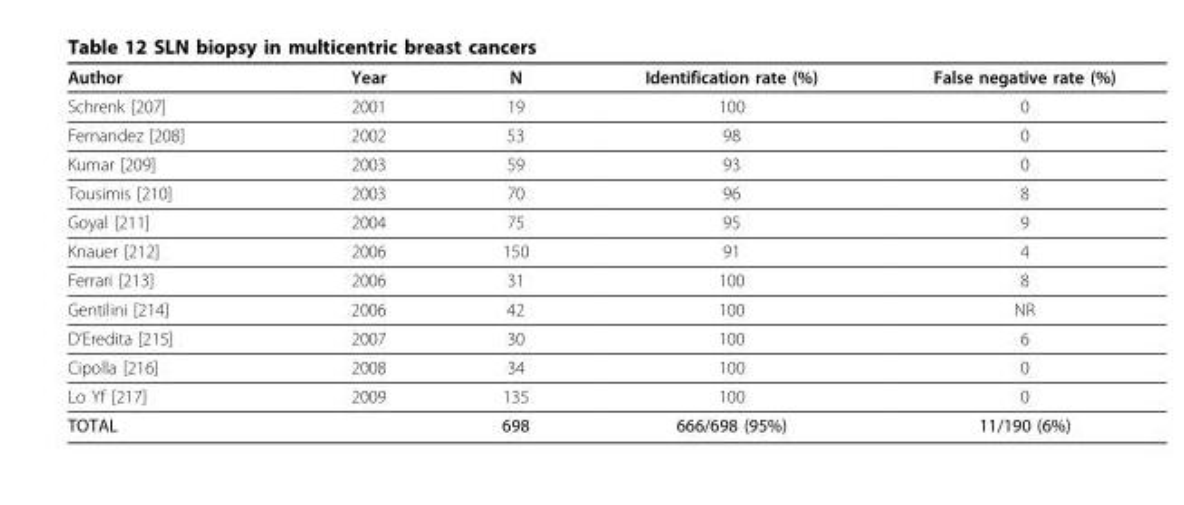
<table><thead><tr><td>Author</td><td>Year</td><td>N</td><td>Identification rate (%)</td><td>False negative rate (%)</td></tr></thead><tbody><tr><td>Schrenk [207]</td><td>2001</td><td>19</td><td>100</td><td>0</td></tr><tr><td>Fernandez [208]</td><td>2002</td><td>53</td><td>98</td><td>0</td></tr><tr><td>Kumar [209]</td><td>2003</td><td>59</td><td>93</td><td>0</td></tr><tr><td>Tousimis [210]</td><td>2003</td><td>70</td><td>96</td><td>8</td></tr><tr><td>Goyal [211]</td><td>2004</td><td>75</td><td>95</td><td>9</td></tr><tr><td>Knauer [212]</td><td>2006</td><td>150</td><td>91</td><td>4</td></tr><tr><td>Ferrari [213]</td><td>2006</td><td>31</td><td>100</td><td>8</td></tr><tr><td>Gentilini [214]</td><td>2006</td><td>42</td><td>100</td><td>NR</td></tr><tr><td>D’Eredita [215]</td><td>2007</td><td>30</td><td>100</td><td>6</td></tr><tr><td>Cipolla [216]</td><td>2008</td><td>34</td><td>100</td><td>0</td></tr><tr><td>Lo Yf [217]</td><td>2009</td><td>135</td><td>100</td><td>0</td></tr><tr><td>TOTAL</td><td></td><td>698</td><td>666/698 (95%)</td><td>11/190 (6%)</td></tr></tbody></table>